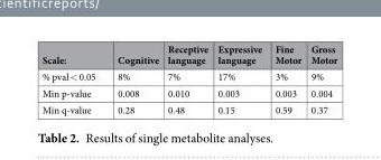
<table><thead><tr><td>Scale:</td><td>Cognitive</td><td>Receptive language</td><td>Expressive language</td><td>Fine Motor</td><td>Gross Motor</td></tr></thead><tbody><tr><td>% pval &lt; 0.05</td><td>8%</td><td>7%</td><td>17%</td><td>3%</td><td>9%</td></tr><tr><td>Min p-value</td><td>0.008</td><td>0.010</td><td>0.003</td><td>0.003</td><td>0.004</td></tr><tr><td>Min q-value</td><td>0.28</td><td>0.48</td><td>0.15</td><td>0.59</td><td>0.37</td></tr></tbody></table>